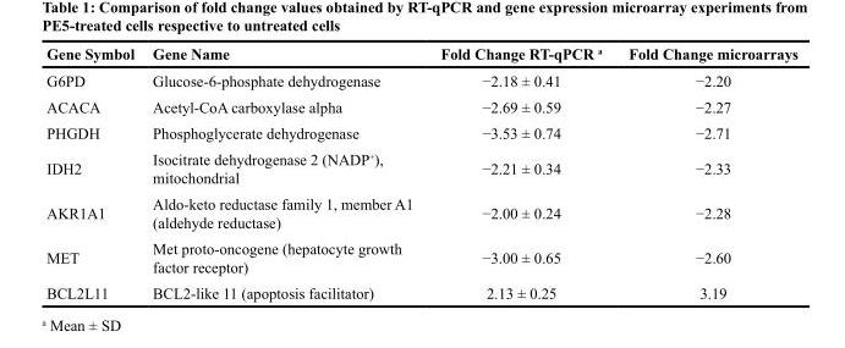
<table><thead><tr><td>Gene Symbol</td><td>Gene Name</td><td>Fold Change RT-qPCR <sup>a</sup></td><td>Fold Change microarrays</td></tr></thead><tbody><tr><td>G6PD</td><td>Glucose-6-phosphate dehydrogenase</td><td>−2.18 ± 0.41</td><td>−2.20</td></tr><tr><td>ACACA</td><td>Acetyl-CoA carboxylase alpha</td><td>−2.69 ± 0.59</td><td>−2.27</td></tr><tr><td>PHGDH</td><td>Phosphoglycerate dehydrogenase</td><td>−3.53 ± 0.74</td><td>−2.71</td></tr><tr><td>IDH2</td><td>Isocitrate dehydrogenase 2 (NADP+), mitochondrial</td><td>−2.21 ± 0.34</td><td>−2.33</td></tr><tr><td>AKR1A1</td><td>Aldo-keto reductase family 1, member A1 (aldehyde reductase)</td><td>−2.00 ± 0.24</td><td>−2.28</td></tr><tr><td>MET</td><td>Met proto-oncogene (hepatocyte growth factor receptor)</td><td>−3.00 ± 0.65</td><td>−2.60</td></tr><tr><td>BCL2L11</td><td>BCL2-like 11 (apoptosis facilitator)</td><td>2.13 ± 0.25</td><td>3.19</td></tr></tbody></table>